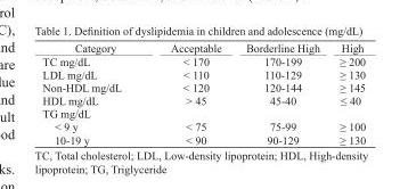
<table><thead><tr><td>Category</td><td>Acceptable</td><td>Borderline High</td><td>High</td></tr></thead><tbody><tr><td>TC mg/dL</td><td>&lt; 170</td><td>170-199</td><td>≥ 200</td></tr><tr><td>LDL mg/dL</td><td>&lt; 110</td><td>110-129</td><td>≥ 130</td></tr><tr><td>Non-HDL mg/dL</td><td>&lt; 120</td><td>120-144</td><td>≥ 145</td></tr><tr><td>HDL mg/dL</td><td>&gt; 45</td><td>45-40</td><td>≤ 40</td></tr><tr><td colspan="4">TG mg/dL</td></tr><tr><td>&lt; 9 y 10-19 y</td><td>&lt; 75 &lt; 90</td><td>75-99 90-129</td><td>≥ 100 ≥ 130</td></tr></tbody></table>